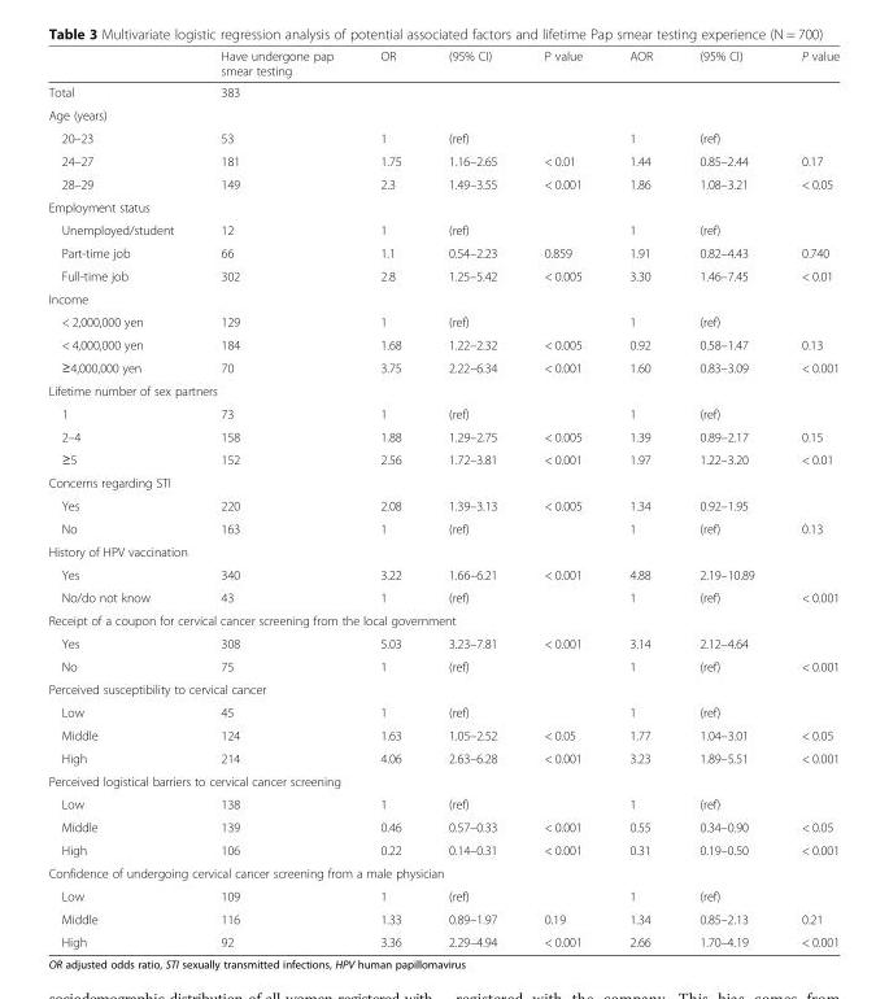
<table><thead><tr><td></td><td>Have undergone pap smear testing</td><td>OR</td><td>(95% CI)</td><td>P value</td><td>AOR</td><td>(95% CI)</td><td>P value</td></tr></thead><tbody><tr><td>Total</td><td>383</td><td></td><td></td><td></td><td></td><td></td><td></td></tr><tr><td colspan="8">Age (years)</td></tr><tr><td>20–23</td><td>53</td><td>1</td><td>(ref)</td><td></td><td>1</td><td>(ref)</td><td></td></tr><tr><td>24–27</td><td>181</td><td>1.75</td><td>1.16–2.65</td><td>&lt; 0.01</td><td>1.44</td><td>0.85–2.44</td><td>0.17</td></tr><tr><td>28–29</td><td>149</td><td>2.3</td><td>1.49–3.55</td><td>&lt; 0.001</td><td>1.86</td><td>1.08–3.21</td><td>&lt; 0.05</td></tr><tr><td colspan="8">Employment status</td></tr><tr><td>Unemployed/student</td><td>12</td><td>1</td><td>(ref)</td><td></td><td>1</td><td>(ref)</td><td></td></tr><tr><td>Part-time job</td><td>66</td><td>1.1</td><td>0.54–2.23</td><td>0.859</td><td>1.91</td><td>0.82–4.43</td><td>0.740</td></tr><tr><td>Full-time job</td><td>302</td><td>2.8</td><td>1.25–5.42</td><td>&lt; 0.005</td><td>3.30</td><td>1.46–7.45</td><td>&lt; 0.01</td></tr><tr><td colspan="8">Income</td></tr><tr><td>&lt; 2,000,000 yen</td><td>129</td><td>1</td><td>(ref)</td><td></td><td>1</td><td>(ref)</td><td></td></tr><tr><td>&lt; 4,000,000 yen</td><td>184</td><td>1.68</td><td>1.22–2.32</td><td>&lt; 0.005</td><td>0.92</td><td>0.58–1.47</td><td>0.13</td></tr><tr><td>≥4,000,000 yen</td><td>70</td><td>3.75</td><td>2.22–6.34</td><td>&lt; 0.001</td><td>1.60</td><td>0.83–3.09</td><td>&lt; 0.001</td></tr><tr><td colspan="8">Lifetime number of sex partners</td></tr><tr><td>1</td><td>73</td><td>1</td><td>(ref)</td><td></td><td>1</td><td>(ref)</td><td></td></tr><tr><td>2–4</td><td>158</td><td>1.88</td><td>1.29–2.75</td><td>&lt; 0.005</td><td>1.39</td><td>0.89–2.17</td><td>0.15</td></tr><tr><td>≥5</td><td>152</td><td>2.56</td><td>1.72–3.81</td><td>&lt; 0.001</td><td>1.97</td><td>1.22–3.20</td><td>&lt; 0.01</td></tr><tr><td colspan="8">Concerns regarding STI</td></tr><tr><td>Yes</td><td>220</td><td>2.08</td><td>1.39–3.13</td><td>&lt; 0.005</td><td>1.34</td><td>0.92–1.95</td><td></td></tr><tr><td>No</td><td>163</td><td>1</td><td>(ref)</td><td></td><td>1</td><td>(ref)</td><td>0.13</td></tr><tr><td colspan="8">History of HPV vaccination</td></tr><tr><td>Yes</td><td>340</td><td>3.22</td><td>1.66–6.21</td><td>&lt; 0.001</td><td>4.88</td><td>2.19–10.89</td><td></td></tr><tr><td>No/do not know</td><td>43</td><td>1</td><td>(ref)</td><td></td><td>1</td><td>(ref)</td><td>&lt; 0.001</td></tr><tr><td colspan="8">Receipt of a coupon for cervical cancer screening from the local government</td></tr><tr><td>Yes</td><td>308</td><td>5.03</td><td>3.23–7.81</td><td>&lt; 0.001</td><td>3.14</td><td>2.12–4.64</td><td></td></tr><tr><td>No</td><td>75</td><td>1</td><td>(ref)</td><td></td><td>1</td><td>(ref)</td><td>&lt; 0.001</td></tr><tr><td colspan="8">Perceived susceptibility to cervical cancer</td></tr><tr><td>Low</td><td>45</td><td>1</td><td>(ref)</td><td></td><td>1</td><td>(ref)</td><td></td></tr><tr><td>Middle</td><td>124</td><td>1.63</td><td>1.05–2.52</td><td>&lt; 0.05</td><td>1.77</td><td>1.04–3.01</td><td>&lt; 0.05</td></tr><tr><td>High</td><td>214</td><td>4.06</td><td>2.63–6.28</td><td>&lt; 0.001</td><td>3.23</td><td>1.89–5.51</td><td>&lt; 0.001</td></tr><tr><td colspan="8">Perceived logistical barriers to cervical cancer screening</td></tr><tr><td>Low</td><td>138</td><td>1</td><td>(ref)</td><td></td><td>1</td><td>(ref)</td><td></td></tr><tr><td>Middle</td><td>139</td><td>0.46</td><td>0.57–0.33</td><td>&lt; 0.001</td><td>0.55</td><td>0.34–0.90</td><td>&lt; 0.05</td></tr><tr><td>High</td><td>106</td><td>0.22</td><td>0.14–0.31</td><td>&lt; 0.001</td><td>0.31</td><td>0.19–0.50</td><td>&lt; 0.001</td></tr><tr><td colspan="8">Confidence of undergoing cervical cancer screening from a male physician</td></tr><tr><td>Low</td><td>109</td><td>1</td><td>(ref)</td><td></td><td>1</td><td>(ref)</td><td></td></tr><tr><td>Middle</td><td>116</td><td>1.33</td><td>0.89–1.97</td><td>0.19</td><td>1.34</td><td>0.85–2.13</td><td>0.21</td></tr><tr><td>High</td><td>92</td><td>3.36</td><td>2.29–4.94</td><td>&lt; 0.001</td><td>2.66</td><td>1.70–4.19</td><td>&lt; 0.001</td></tr></tbody></table>